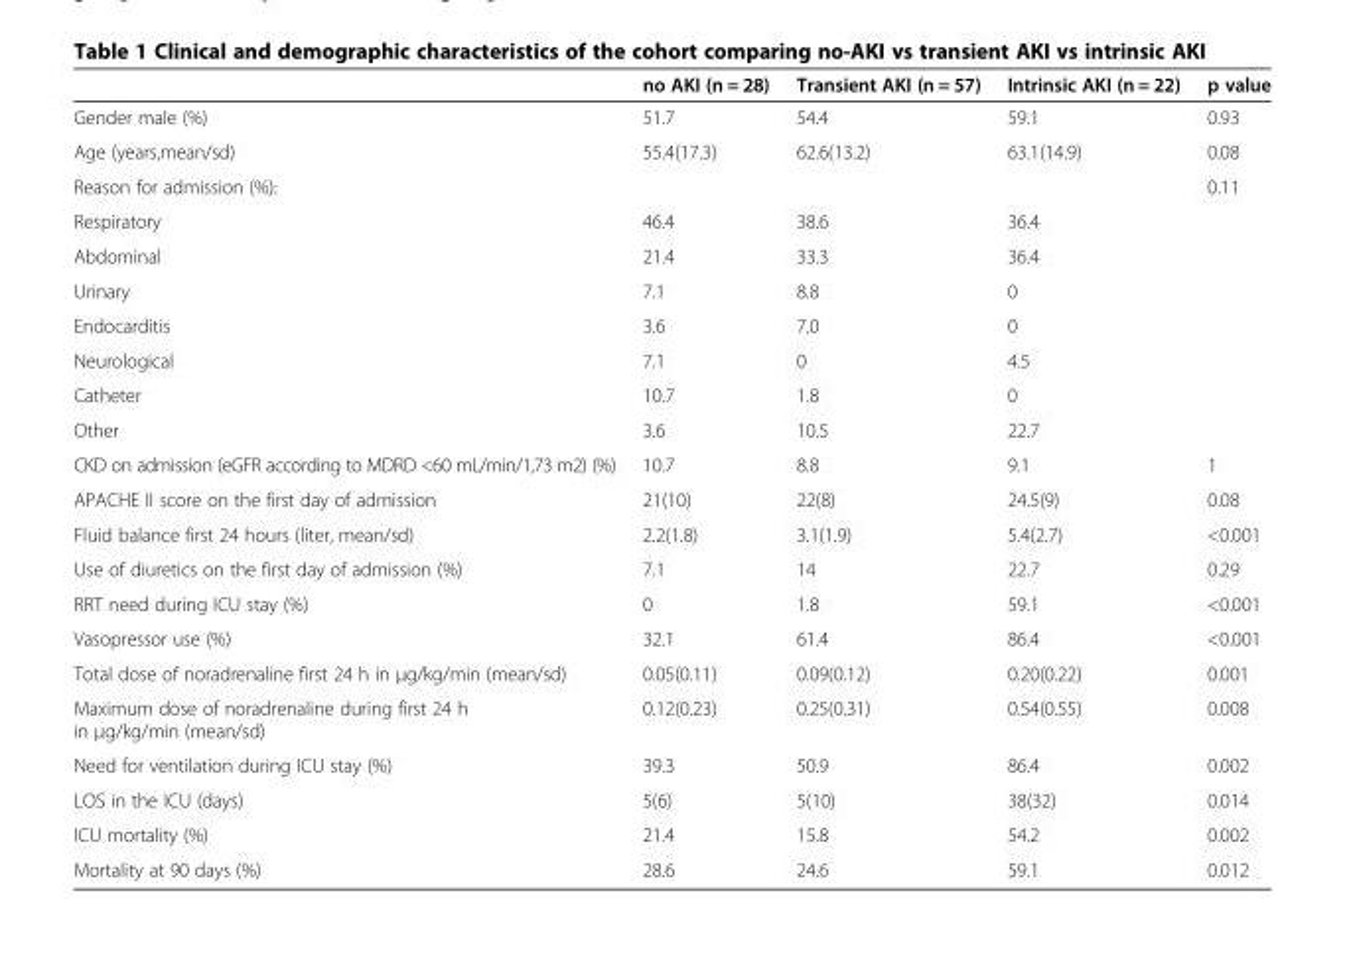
<table><thead><tr><td></td><td>no AKI (n = 28)</td><td>Transient AKI (n = 57)</td><td>Intrinsic AKI (n = 22)</td><td>p value</td></tr></thead><tbody><tr><td>Gender male (%)</td><td>51.7</td><td>54.4</td><td>59.1</td><td>0.93</td></tr><tr><td>Age (years,mean/sd)</td><td>55.4(17.3)</td><td>62.6(13.2)</td><td>63.1(14.9)</td><td>0.08</td></tr><tr><td>Reason for admission (%):</td><td></td><td></td><td></td><td>0.11</td></tr><tr><td>Respiratory</td><td>46.4</td><td>38.6</td><td>36.4</td><td></td></tr><tr><td>Abdominal</td><td>21.4</td><td>33.3</td><td>36.4</td><td></td></tr><tr><td>Urinary</td><td>7.1</td><td>8.8</td><td>0</td><td></td></tr><tr><td>Endocarditis</td><td>3.6</td><td>7.0</td><td>0</td><td></td></tr><tr><td>Neurological</td><td>7.1</td><td>0</td><td>4.5</td><td></td></tr><tr><td>Catheter</td><td>10.7</td><td>1.8</td><td>0</td><td></td></tr><tr><td>Other</td><td>3.6</td><td>10.5</td><td>22.7</td><td></td></tr><tr><td>CKD on admission (eGFR according to MDRD &lt;60 mL/min/1,73 m2) (%)</td><td>10.7</td><td>8.8</td><td>9.1</td><td>1</td></tr><tr><td>APACHE II score on the first day of admission</td><td>21(10)</td><td>22(8)</td><td>24.5(9)</td><td>0.08</td></tr><tr><td>Fluid balance first 24 hours (liter, mean/sd)</td><td>2.2(1.8)</td><td>3.1(1.9)</td><td>5.4(2.7)</td><td>&lt;0.001</td></tr><tr><td>Use of diuretics on the first day of admission (%)</td><td>7.1</td><td>14</td><td>22.7</td><td>0.29</td></tr><tr><td>RRT need during ICU stay (%)</td><td>0</td><td>1.8</td><td>59.1</td><td>&lt;0.001</td></tr><tr><td>Vasopressor use (%)</td><td>32.1</td><td>61.4</td><td>86.4</td><td>&lt;0.001</td></tr><tr><td>Total dose of noradrenaline first 24 h in μg/kg/min (mean/sd)</td><td>0.05(0.11)</td><td>0.09(0.12)</td><td>0.20(0.22)</td><td>0.001</td></tr><tr><td>Maximum dose of noradrenaline during first 24 h in μg/kg/min (mean/sd)</td><td>0.12(0.23)</td><td>0.25(0.31)</td><td>0.54(0.55)</td><td>0.008</td></tr><tr><td>Need for ventilation during ICU stay (%)</td><td>39.3</td><td>50.9</td><td>86.4</td><td>0.002</td></tr><tr><td>LOS in the ICU (days)</td><td>5(6)</td><td>5(10)</td><td>38(32)</td><td>0.014</td></tr><tr><td>ICU mortality (%)</td><td>21.4</td><td>15.8</td><td>54.2</td><td>0.002</td></tr><tr><td>Mortality at 90 days (%)</td><td>28.6</td><td>24.6</td><td>59.1</td><td>0.012</td></tr></tbody></table>